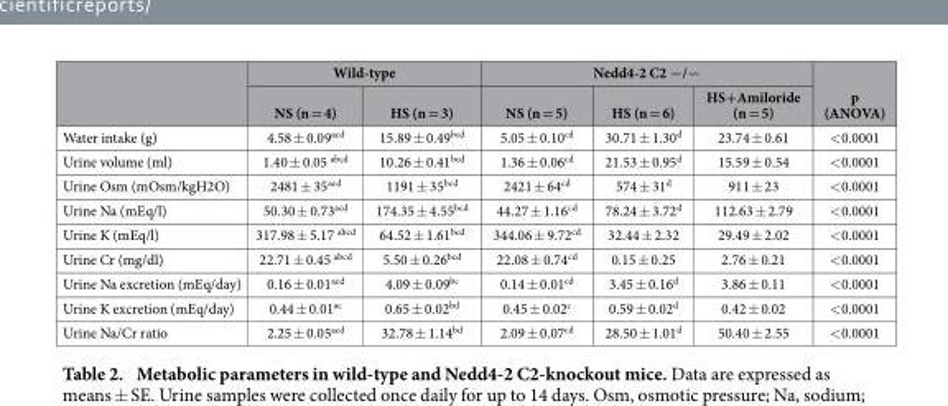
<table><thead><tr><td rowspan="2"></td><td colspan="2">Wild-type</td><td colspan="3">Nedd4-2 C2 −/−</td><td rowspan="2">p (ANOVA)</td></tr><tr><td>NS (n = 4)</td><td>HS (n = 3)</td><td>NS (n = 5)</td><td>HS (n = 6)</td><td>HS+Amiloride (n = 5)</td></tr></thead><tbody><tr><td>Water intake (g)</td><td>4.58 ± 0.09<sup>acd</sup></td><td>15.89 ± 0.49<sup>bcd</sup></td><td>5.05 ± 0.10<sup>cd</sup></td><td>30.71 ± 1.30<sup>d</sup></td><td>23.74 ± 0.61</td><td>&lt; 0.0001</td></tr><tr><td>Urine volume (ml)</td><td>1.40 ± 0.05 <sup>abcd</sup></td><td>10.26 ± 0.41<sup>bcd</sup></td><td>1.36 ± 0.06<sup>cd</sup></td><td>21.53 ± 0.95<sup>d</sup></td><td>15.59 ± 0.54</td><td>&lt; 0.0001</td></tr><tr><td>Urine Osm (mOsm/kgH2O)</td><td>2481 ± 35<sup>acd</sup></td><td>1191 ± 35<sup>bcd</sup></td><td>2421 ± 64<sup>cd</sup></td><td>574 ± 31<sup>d</sup></td><td>911 ± 23</td><td>&lt; 0.0001</td></tr><tr><td>Urine Na (mEq/l)</td><td>50.30 ± 0.73<sup>acd</sup></td><td>174.35 ± 4.55<sup>bcd</sup></td><td>44.27 ± 1.16<sup>cd</sup></td><td>78.24 ± 3.72<sup>d</sup></td><td>112.63 ± 2.79</td><td>&lt; 0.0001</td></tr><tr><td>Urine K (mEq/l)</td><td>317.98 ± 5.17 <sup>abcd</sup></td><td>64.52 ± 1.61<sup>bcd</sup></td><td>344.06 ± 9.72<sup>cd</sup></td><td>32.44 ± 2.32</td><td>29.49 ± 2.02</td><td>&lt; 0.0001</td></tr><tr><td>Urine Cr (mg/dl)</td><td>22.71 ± 0.45 <sup>abcd</sup></td><td>5.50 ± 0.26<sup>bcd</sup></td><td>22.08 ± 0.74<sup>cd</sup></td><td>0.15 ± 0.25</td><td>2.76 ± 0.21</td><td>&lt; 0.0001</td></tr><tr><td>Urine Na excretion (mEq/day)</td><td>0.16 ± 0.01<sup>acd</sup></td><td>4.09 ± 0.09<sup>bc</sup></td><td>0.14 ± 0.01<sup>cd</sup></td><td>3.45 ± 0.16<sup>d</sup></td><td>3.86 ± 0.11</td><td>&lt; 0.0001</td></tr><tr><td>Urine K excretion (mEq/day)</td><td>0.44 ± 0.01<sup>ac</sup></td><td>0.65 ± 0.02<sup>bd</sup></td><td>0.45 ± 0.02<sup>c</sup></td><td>0.59 ± 0.02<sup>d</sup></td><td>0.42 ± 0.02</td><td>&lt; 0.0001</td></tr><tr><td>Urine Na/Cr ratio</td><td>2.25 ± 0.05<sup>acd</sup></td><td>32.78 ± 1.14<sup>bd</sup></td><td>2.09 ± 0.07<sup>cd</sup></td><td>28.50 ± 1.01<sup>d</sup></td><td>50.40 ± 2.55</td><td>&lt; 0.0001</td></tr></tbody></table>